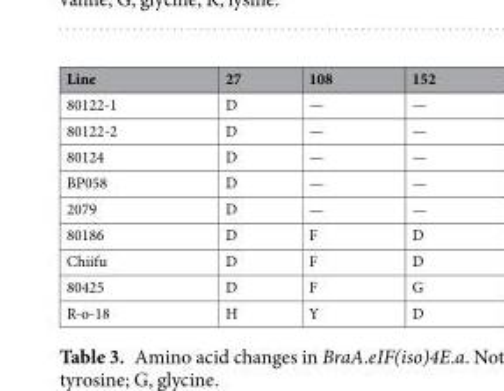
<table><thead><tr><td>Line</td><td>27</td><td>108</td><td>152</td></tr></thead><tbody><tr><td>80122-1</td><td>D</td><td>—</td><td>—</td></tr><tr><td>80122-2</td><td>D</td><td>—</td><td>—</td></tr><tr><td>80124</td><td>D</td><td>—</td><td>—</td></tr><tr><td>BP058</td><td>D</td><td>—</td><td>—</td></tr><tr><td>2079</td><td>D</td><td>—</td><td>—</td></tr><tr><td>80186</td><td>D</td><td>F</td><td>D</td></tr><tr><td>Chiifu</td><td>D</td><td>F</td><td>D</td></tr><tr><td>80425</td><td>D</td><td>F</td><td>G</td></tr><tr><td>R-o-18</td><td>H</td><td>Y</td><td>D</td></tr></tbody></table>